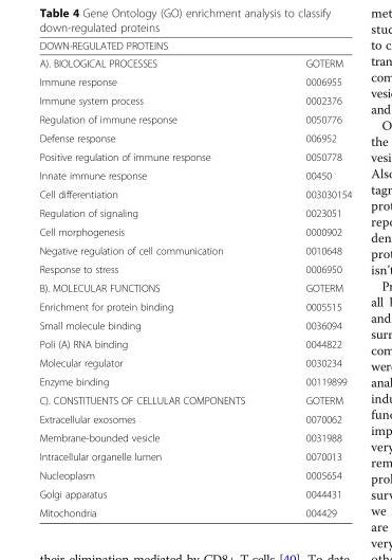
<table><thead><tr><td colspan="2">DOWN-REGULATED PROTEINS</td></tr><tr><td>A). BIOLOGICAL PROCESSES</td><td>GOTERM</td></tr></thead><tbody><tr><td>Immune response</td><td>0006955</td></tr><tr><td>Immune system process</td><td>0002376</td></tr><tr><td>Regulation of immune response</td><td>0050776</td></tr><tr><td>Defense response</td><td>006952</td></tr><tr><td>Positive regulation of immune response</td><td>0050778</td></tr><tr><td>Innate immune response</td><td>00450</td></tr><tr><td>Cell differentiation</td><td>003030154</td></tr><tr><td>Regulation of signaling</td><td>0023051</td></tr><tr><td>Cell morphogenesis</td><td>0000902</td></tr><tr><td>Negative regulation of cell communication</td><td>0010648</td></tr><tr><td>Response to stress</td><td>0006950</td></tr><tr><td>B). MOLECULAR FUNCTIONS</td><td>GOTERM</td></tr><tr><td>Enrichment for protein binding</td><td>0005515</td></tr><tr><td>Small molecule binding</td><td>0036094</td></tr><tr><td>Poli (A) RNA binding</td><td>0044822</td></tr><tr><td>Molecular regulator</td><td>0030234</td></tr><tr><td>Enzyme binding</td><td>00119899</td></tr><tr><td>C). CONSTITUENTS OF CELLULAR COMPONENTS</td><td>GOTERM</td></tr><tr><td>Extracellular exosomes</td><td>0070062</td></tr><tr><td>Membrane-bounded vesicle</td><td>0031988</td></tr><tr><td>Intracellular organelle lumen</td><td>0070013</td></tr><tr><td>Nucleoplasm</td><td>0005654</td></tr><tr><td>Golgi apparatus</td><td>0044431</td></tr><tr><td>Mitochondria</td><td>004429</td></tr></tbody></table>